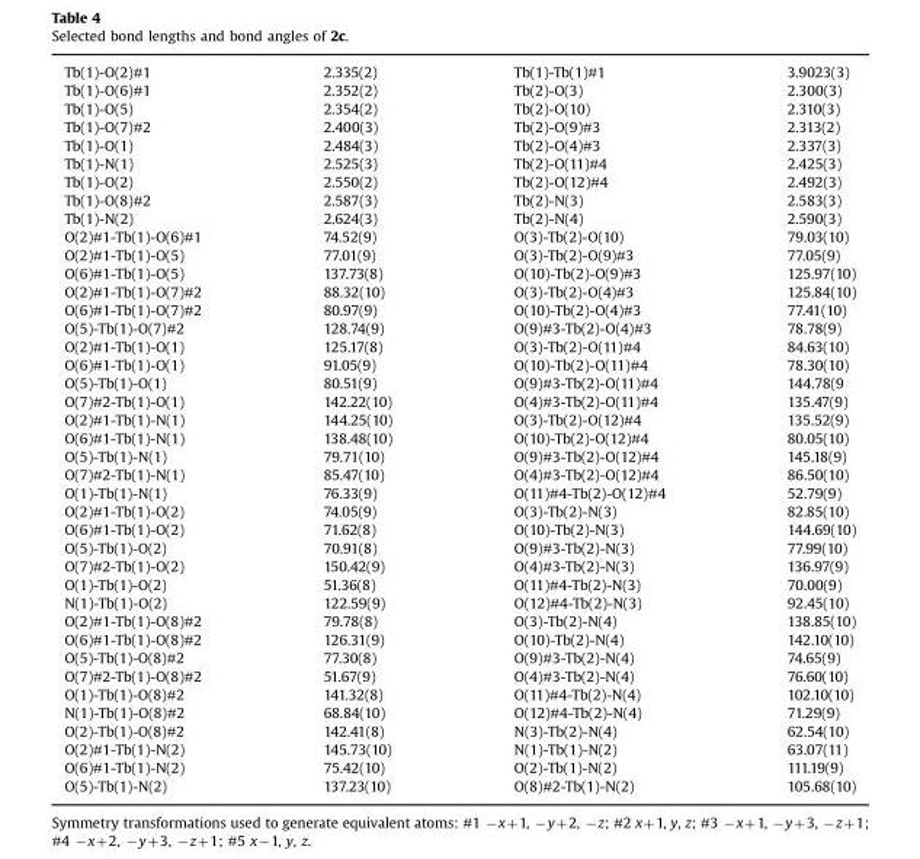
<table><tbody><tr><td>Tb(1)-O(2)#1</td><td>2.335(2)</td><td>Tb(1)-Tb(1)#1</td><td>3.9023(3)</td></tr><tr><td>Tb(1)-O(6)#1</td><td>2.352(2)</td><td>Tb(2)-O(3)</td><td>2.300(3)</td></tr><tr><td>Tb(1)-O(5)</td><td>2.354(2)</td><td>Tb(2)-O(10)</td><td>2.310(3)</td></tr><tr><td>Tb(1)-O(7)#2</td><td>2.400(3)</td><td>Tb(2)-O(9)#3</td><td>2.313(2)</td></tr><tr><td>Tb(1)-O(1)</td><td>2.484(3)</td><td>Tb(2)-O(4)#3</td><td>2.337(3)</td></tr><tr><td>Tb(1)-N(1)</td><td>2.525(3)</td><td>Tb(2)-O(11)#4</td><td>2.425(3)</td></tr><tr><td>Tb(1)-O(2)</td><td>2.550(2)</td><td>Tb(2)-O(12)#4</td><td>2.492(3)</td></tr><tr><td>Tb(1)-O(8)#2</td><td>2.587(3)</td><td>Tb(2)-N(3)</td><td>2.583(3)</td></tr><tr><td>Tb(1)-N(2)</td><td>2.624(3)</td><td>Tb(2)-N(4)</td><td>2.590(3)</td></tr><tr><td>O(2)#1-Tb(1)-O(6)#1</td><td>74.52(9)</td><td>O(3)-Tb(2)-O(10)</td><td>79.03(10)</td></tr><tr><td>O(2)#1-Tb(1)-O(5)</td><td>77.01(9)</td><td>O(3)-Tb(2)-O(9)#3</td><td>77.05(9)</td></tr><tr><td>O(6)#1-Tb(1)-O(5)</td><td>137.73(8)</td><td>O(10)-Tb(2)-O(9)#3</td><td>125.97(10)</td></tr><tr><td>O(2)#1-Tb(1)-O(7)#2</td><td>88.32(10)</td><td>O(3)-Tb(2)-O(4)#3</td><td>125.84(10)</td></tr><tr><td>O(6)#1-Tb(1)-O(7)#2</td><td>80.97(9)</td><td>O(10)-Tb(2)-O(4)#3</td><td>77.41(10)</td></tr><tr><td>O(5)-Tb(1)-O(7)#2</td><td>128.74(9)</td><td>O(9)#3-Tb(2)-O(4)#3</td><td>78.78(9)</td></tr><tr><td>O(2)#1-Tb(1)-O(1)</td><td>125.17(8)</td><td>O(3)-Tb(2)-O(11)#4</td><td>84.63(10)</td></tr><tr><td>O(6)#1-Tb(1)-O(1)</td><td>91.05(9)</td><td>O(10)-Tb(2)-O(11)#4</td><td>78.30(10)</td></tr><tr><td>O(5)-Tb(1)-O(1)</td><td>80.51(9)</td><td>O(9)#3-Tb(2)-O(11)#4</td><td>144.78(9</td></tr><tr><td>O(7)#2-Tb(1)-O(1)</td><td>142.22(10)</td><td>O(4)#3-Tb(2)-O(11)#4</td><td>135.47(9)</td></tr><tr><td>O(2)#1-Tb(1)-N(1)</td><td>144.25(10)</td><td>O(3)-Tb(2)-O(12)#4</td><td>135.52(9)</td></tr><tr><td>O(6)#1-Tb(1)-N(1)</td><td>138.48(10)</td><td>O(10)-Tb(2)-O(12)#4</td><td>80.05(10)</td></tr><tr><td>O(5)-Tb(1)-N(1)</td><td>79.71(10)</td><td>O(9)#3-Tb(2)-O(12)#4</td><td>145.18(9)</td></tr><tr><td>O(7)#2-Tb(1)-N(1)</td><td>85.47(10)</td><td>O(4)#3-Tb(2)-O(12)#4</td><td>86.50(10)</td></tr><tr><td>O(1)-Tb(1)-N(1)</td><td>76.33(9)</td><td>O(11)#4-Tb(2)-O(12)#4</td><td>52.79(9)</td></tr><tr><td>O(2)#1-Tb(1)-O(2)</td><td>74.05(9)</td><td>O(3)-Tb(2)-N(3)</td><td>82.85(10)</td></tr><tr><td>O(6)#1-Tb(1)-O(2)</td><td>71.62(8)</td><td>O(10)-Tb(2)-N(3)</td><td>144.69(10)</td></tr><tr><td>O(5)-Tb(1)-O(2)</td><td>70.91(8)</td><td>O(9)#3-Tb(2)-N(3)</td><td>77.99(10)</td></tr><tr><td>O(7)#2-Tb(1)-O(2)</td><td>150.42(9)</td><td>O(4)#3-Tb(2)-N(3)</td><td>136.97(9)</td></tr><tr><td>O(1)-Tb(1)-O(2)</td><td>51.36(8)</td><td>O(11)#4-Tb(2)-N(3)</td><td>70.00(9)</td></tr><tr><td>N(1)-Tb(1)-O(2)</td><td>122.59(9)</td><td>O(12)#4-Tb(2)-N(3)</td><td>92.45(10)</td></tr><tr><td>O(2)#1-Tb(1)-O(8)#2</td><td>79.78(8)</td><td>O(3)-Tb(2)-N(4)</td><td>138.85(10)</td></tr><tr><td>O(6)#1-Tb(1)-O(8)#2</td><td>126.31(9)</td><td>O(10)-Tb(2)-N(4)</td><td>142.10(10)</td></tr><tr><td>O(5)-Tb(1)-O(8)#2</td><td>77.30(8)</td><td>O(9)#3-Tb(2)-N(4)</td><td>74.65(9)</td></tr><tr><td>O(7)#2-Tb(1)-O(8)#2</td><td>51.67(9)</td><td>O(4)#3-Tb(2)-N(4)</td><td>76.60(10)</td></tr><tr><td>O(1)-Tb(1)-O(8)#2</td><td>141.32(8)</td><td>O(11)#4-Tb(2)-N(4)</td><td>102.10(10)</td></tr><tr><td>N(1)-Tb(1)-O(8)#2</td><td>68.84(10)</td><td>O(12)#4-Tb(2)-N(4)</td><td>71.29(9)</td></tr><tr><td>O(2)-Tb(1)-O(8)#2</td><td>142.41(8)</td><td>N(3)-Tb(2)-N(4)</td><td>62.54(10)</td></tr><tr><td>O(2)#1-Tb(1)-N(2)</td><td>145.73(10)</td><td>N(1)-Tb(1)-N(2)</td><td>63.07(11)</td></tr><tr><td>O(6)#1-Tb(1)-N(2)</td><td>75.42(10)</td><td>O(2)-Tb(1)-N(2)</td><td>111.19(9)</td></tr><tr><td>O(5)-Tb(1)-N(2)</td><td>137.23(10)</td><td>O(8)#2-Tb(1)-N(2)</td><td>105.68(10)</td></tr></tbody></table>